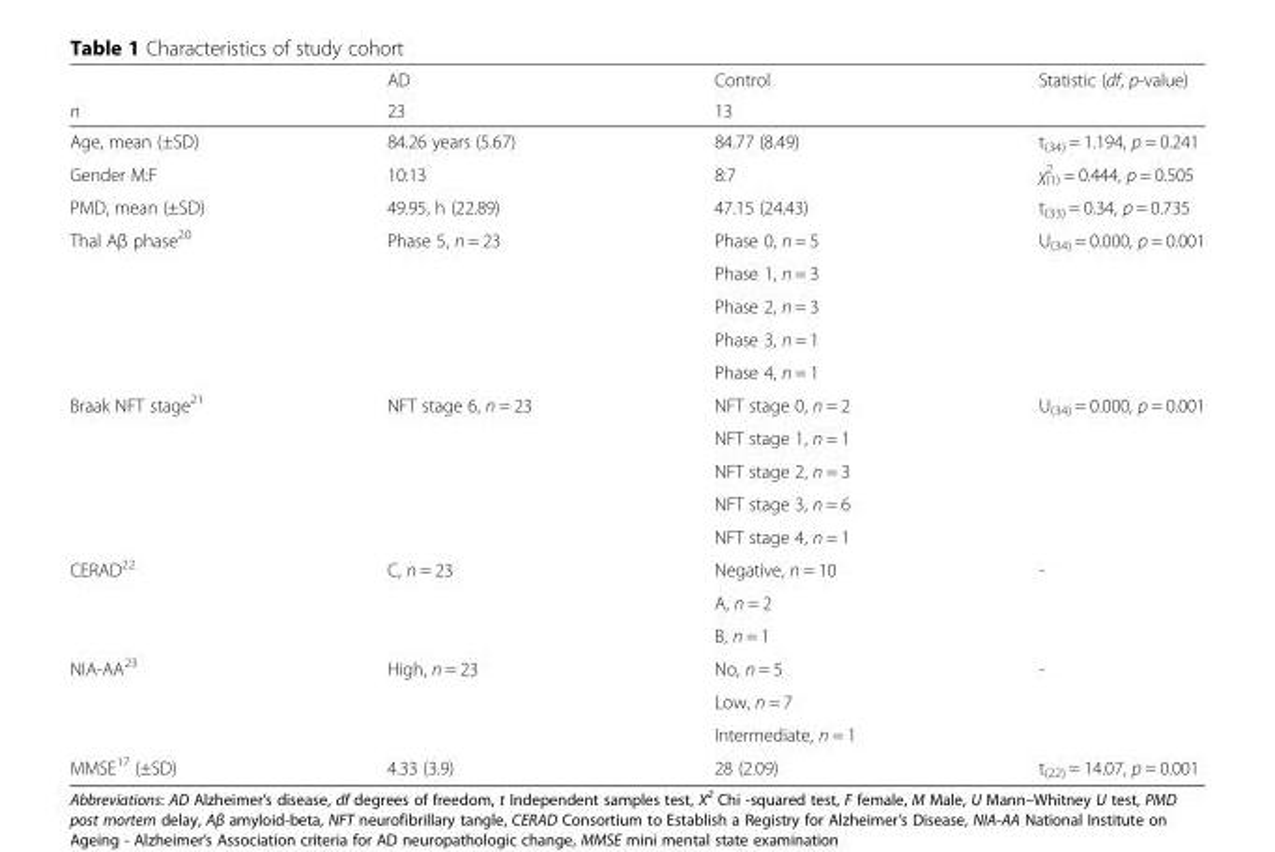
<table><thead><tr><td rowspan="2">n</td><td rowspan="2">AD 23</td><td rowspan="2">Control 13</td><td rowspan="2">Statistic (df, p-value)</td></tr><tr></tr></thead><tbody><tr><td>Age, mean (±SD)</td><td>84.26 years (5.67)</td><td>84.77 (8.49)</td><td>t<sub>(34)</sub> = 1.194, p = 0.241</td></tr><tr><td>Gender M:F</td><td>10:13</td><td>8:7</td><td>χ<sup>2</sup> <sub>(1)</sub> = 0.444, p = 0.505</td></tr><tr><td>PMD, mean (±SD)</td><td>49.95, h (22.89)</td><td>47.15 (24.43)</td><td>t<sub>(33)</sub> = 0.34, p = 0.735</td></tr><tr><td rowspan="5">Thal Aβ phase<sup>20</sup></td><td rowspan="5">Phase 5, n = 23</td><td>Phase 0, n = 5</td><td rowspan="5">U<sub>(34)</sub> = 0.000, p = 0.001</td></tr><tr><td>Phase 1, n = 3</td></tr><tr><td>Phase 2, n = 3</td></tr><tr><td>Phase 3, n = 1</td></tr><tr><td>Phase 4, n = 1</td></tr><tr><td rowspan="5">Braak NFT stage<sup>21</sup></td><td rowspan="5">NFT stage 6, n = 23</td><td>NFT stage 0, n = 2</td><td rowspan="5">U<sub>(34)</sub> = 0.000, p = 0.001</td></tr><tr><td>NFT stage 1, n = 1</td></tr><tr><td>NFT stage 2, n = 3</td></tr><tr><td>NFT stage 3, n = 6</td></tr><tr><td>NFT stage 4, n = 1</td></tr><tr><td rowspan="3">CERAD<sup>22</sup></td><td rowspan="3">C, n = 23</td><td>Negative, n = 10</td><td rowspan="3">-</td></tr><tr><td>A, n = 2</td></tr><tr><td>B, n = 1</td></tr><tr><td rowspan="3">NIA-AA<sup>23</sup></td><td rowspan="3">High, n = 23</td><td>No, n = 5</td><td rowspan="3">-</td></tr><tr><td>Low, n = 7</td></tr><tr><td>Intermediate, n = 1</td></tr><tr><td>MMSE<sup>17</sup> (±SD)</td><td>4.33 (3.9)</td><td>28 (2.09)</td><td>t<sub>(22)</sub> = 14.07, p = 0.001</td></tr></tbody></table>